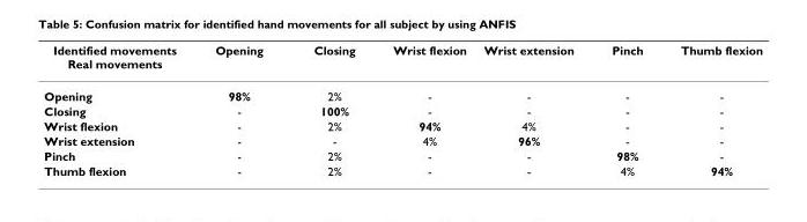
<table><thead><tr><td>Identified movements Real movements</td><td>Opening</td><td>Closing</td><td>Wrist flexion</td><td>Wrist extension</td><td>Pinch</td><td>Thumb flexion</td></tr></thead><tbody><tr><td>Opening</td><td>98%</td><td>2%</td><td>-</td><td>-</td><td>-</td><td>-</td></tr><tr><td>Closing</td><td>-</td><td>100%</td><td>-</td><td>-</td><td>-</td><td>-</td></tr><tr><td>Wrist flexion</td><td>-</td><td>2%</td><td>94%</td><td>4%</td><td>-</td><td>-</td></tr><tr><td>Wrist extension</td><td>-</td><td>-</td><td>4%</td><td>96%</td><td>-</td><td>-</td></tr><tr><td>Pinch</td><td>-</td><td>2%</td><td>-</td><td>-</td><td>98%</td><td>-</td></tr><tr><td>Thumb flexion</td><td>-</td><td>2%</td><td>-</td><td>-</td><td>4%</td><td>94%</td></tr></tbody></table>